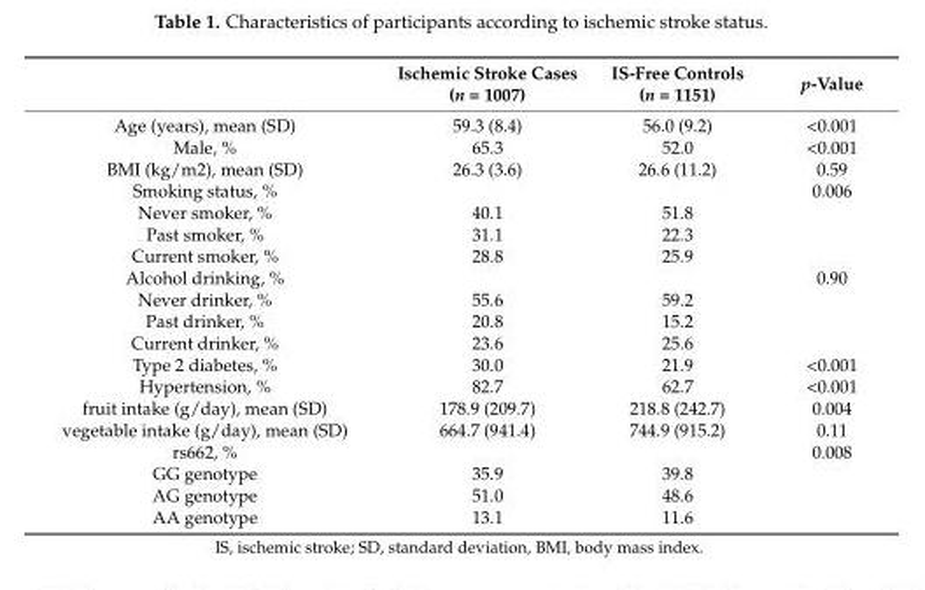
<table><thead><tr><td></td><td>Ischemic Stroke Cases (n = 1007)</td><td>IS-Free Controls (n = 1151)</td><td>p-Value</td></tr></thead><tbody><tr><td>Age (years), mean (SD)</td><td>59.3 (8.4)</td><td>56.0 (9.2)</td><td>&lt;0.001</td></tr><tr><td>Male, %</td><td>65.3</td><td>52.0</td><td>&lt;0.001</td></tr><tr><td>BMI (kg/m2), mean (SD)</td><td>26.3 (3.6)</td><td>26.6 (11.2)</td><td>0.59</td></tr><tr><td>Smoking status, %</td><td></td><td></td><td>0.006</td></tr><tr><td>Never smoker, %</td><td>40.1</td><td>51.8</td><td></td></tr><tr><td>Past smoker, %</td><td>31.1</td><td>22.3</td><td></td></tr><tr><td>Current smoker, %</td><td>28.8</td><td>25.9</td><td></td></tr><tr><td>Alcohol drinking, %</td><td></td><td></td><td>0.90</td></tr><tr><td>Never drinker, %</td><td>55.6</td><td>59.2</td><td></td></tr><tr><td>Past drinker, %</td><td>20.8</td><td>15.2</td><td></td></tr><tr><td>Current drinker, %</td><td>23.6</td><td>25.6</td><td></td></tr><tr><td>Type 2 diabetes, %</td><td>30.0</td><td>21.9</td><td>&lt;0.001</td></tr><tr><td>Hypertension, %</td><td>82.7</td><td>62.7</td><td>&lt;0.001</td></tr><tr><td>fruit intake (g/day), mean (SD)</td><td>178.9 (209.7)</td><td>218.8 (242.7)</td><td>0.004</td></tr><tr><td>vegetable intake (g/day), mean (SD)</td><td>664.7 (941.4)</td><td>744.9 (915.2)</td><td>0.11</td></tr><tr><td>rs662, %</td><td></td><td></td><td>0.008</td></tr><tr><td>GG genotype</td><td>35.9</td><td>39.8</td><td></td></tr><tr><td>AG genotype</td><td>51.0</td><td>48.6</td><td></td></tr><tr><td>AA genotype</td><td>13.1</td><td>11.6</td><td></td></tr></tbody></table>